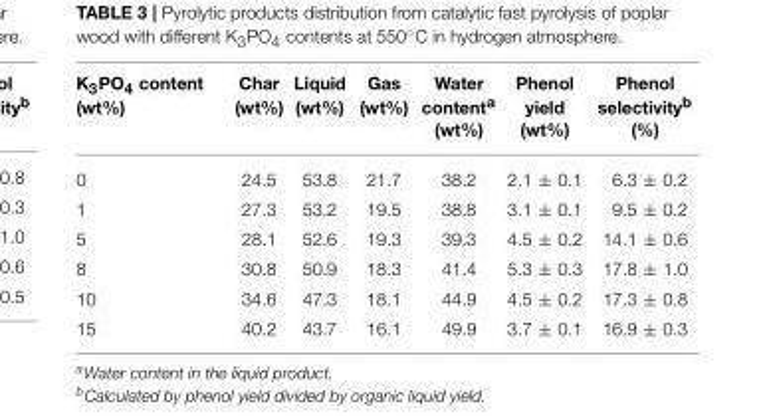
<table><thead><tr><td>K<sub>3</sub>PO<sub>4</sub> content (wt%)</td><td>Char (wt%)</td><td>Liquid (wt%)</td><td>Gas (wt%)</td><td>Water content<sup>a</sup> (wt%)</td><td>Phenol yield (wt%)</td><td>Phenol selectivity<sup>b</sup> (%)</td></tr></thead><tbody><tr><td>0</td><td>24.5</td><td>53.8</td><td>21.7</td><td>38.2</td><td>2.1 ± 0.1</td><td>6.3 ± 0.2</td></tr><tr><td>1</td><td>27.3</td><td>53.2</td><td>19.5</td><td>38.8</td><td>3.1 ± 0.1</td><td>9.5 ± 0.2</td></tr><tr><td>5</td><td>28.1</td><td>52.6</td><td>19.3</td><td>39.3</td><td>4.5 ± 0.2</td><td>14.1 ± 0.6</td></tr><tr><td>8</td><td>30.8</td><td>50.9</td><td>18.3</td><td>41.4</td><td>5.3 ± 0.3</td><td>17.8 ± 1.0</td></tr><tr><td>10</td><td>34.6</td><td>47.3</td><td>18.1</td><td>44.9</td><td>4.5 ± 0.2</td><td>17.3 ± 0.8</td></tr><tr><td>15</td><td>40.2</td><td>43.7</td><td>16.1</td><td>49.9</td><td>3.7 ± 0.1</td><td>16.9 ± 0.3</td></tr></tbody></table>